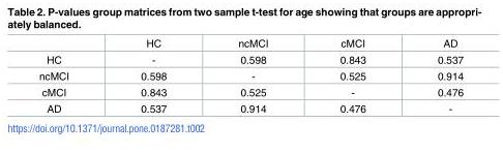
<table><thead><tr><td></td><td>HC</td><td>ncMCI</td><td>cMCI</td><td>AD</td></tr></thead><tbody><tr><td>HC</td><td>-</td><td>0.598</td><td>0.843</td><td>0.537</td></tr><tr><td>ncMCI</td><td>0.598</td><td>-</td><td>0.525</td><td>0.914</td></tr><tr><td>cMCI</td><td>0.843</td><td>0.525</td><td>-</td><td>0.476</td></tr><tr><td>AD</td><td>0.537</td><td>0.914</td><td>0.476</td><td>-</td></tr></tbody></table>